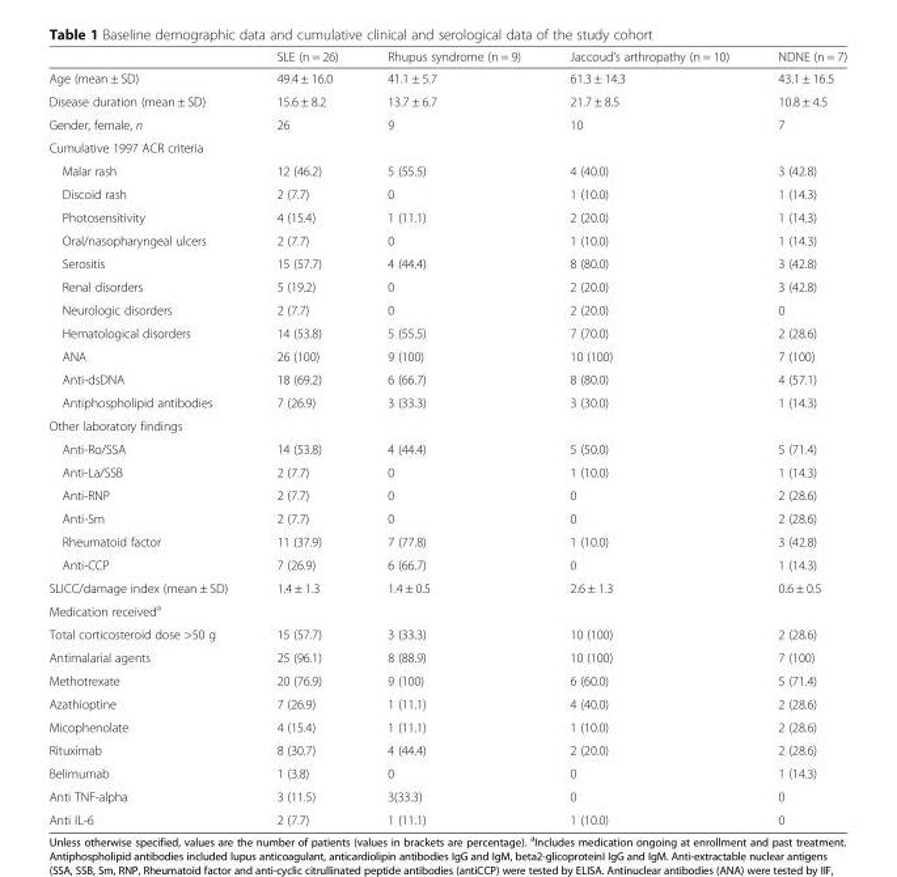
<table><thead><tr><td></td><td>SLE (n = 26)</td><td>Rhupus syndrome (n = 9)</td><td>Jaccoud’s arthropathy (n = 10)</td><td>NDNE (n = 7)</td></tr></thead><tbody><tr><td>Age (mean ± SD)</td><td>49.4 ± 16.0</td><td>41.1 ± 5.7</td><td>61.3 ± 14.3</td><td>43.1 ± 16.5</td></tr><tr><td>Disease duration (mean ± SD)</td><td>15.6 ± 8.2</td><td>13.7 ± 6.7</td><td>21.7 ± 8.5</td><td>10.8 ± 4.5</td></tr><tr><td>Gender, female, n</td><td>26</td><td>9</td><td>10</td><td>7</td></tr><tr><td colspan="5">Cumulative 1997 ACR criteria</td></tr><tr><td>Malar rash</td><td>12 (46.2)</td><td>5 (55.5)</td><td>4 (40.0)</td><td>3 (42.8)</td></tr><tr><td>Discoid rash</td><td>2 (7.7)</td><td>0</td><td>1 (10.0)</td><td>1 (14.3)</td></tr><tr><td>Photosensitivity</td><td>4 (15.4)</td><td>1 (11.1)</td><td>2 (20.0)</td><td>1 (14.3)</td></tr><tr><td>Oral/nasopharyngeal ulcers</td><td>2 (7.7)</td><td>0</td><td>1 (10.0)</td><td>1 (14.3)</td></tr><tr><td>Serositis</td><td>15 (57.7)</td><td>4 (44.4)</td><td>8 (80.0)</td><td>3 (42.8)</td></tr><tr><td>Renal disorders</td><td>5 (19.2)</td><td>0</td><td>2 (20.0)</td><td>3 (42.8)</td></tr><tr><td>Neurologic disorders</td><td>2 (7.7)</td><td>0</td><td>2 (20.0)</td><td>0</td></tr><tr><td>Hematological disorders</td><td>14 (53.8)</td><td>5 (55.5)</td><td>7 (70.0)</td><td>2 (28.6)</td></tr><tr><td>ANA</td><td>26 (100)</td><td>9 (100)</td><td>10 (100)</td><td>7 (100)</td></tr><tr><td>Anti-dsDNA</td><td>18 (69.2)</td><td>6 (66.7)</td><td>8 (80.0)</td><td>4 (57.1)</td></tr><tr><td>Antiphospholipid antibodies</td><td>7 (26.9)</td><td>3 (33.3)</td><td>3 (30.0)</td><td>1 (14.3)</td></tr><tr><td colspan="5">Other laboratory findings</td></tr><tr><td>Anti-Ro/SSA</td><td>14 (53.8)</td><td>4 (44.4)</td><td>5 (50.0)</td><td>5 (71.4)</td></tr><tr><td>Anti-La/SSB</td><td>2 (7.7)</td><td>0</td><td>1 (10.0)</td><td>1 (14.3)</td></tr><tr><td>Anti-RNP</td><td>2 (7.7)</td><td>0</td><td>0</td><td>2 (28.6)</td></tr><tr><td>Anti-Sm</td><td>2 (7.7)</td><td>0</td><td>0</td><td>2 (28.6)</td></tr><tr><td>Rheumatoid factor</td><td>11 (37.9)</td><td>7 (77.8)</td><td>1 (10.0)</td><td>3 (42.8)</td></tr><tr><td>Anti-CCP</td><td>7 (26.9)</td><td>6 (66.7)</td><td>0</td><td>1 (14.3)</td></tr><tr><td>SLICC/damage index (mean ± SD)</td><td>1.4 ± 1.3</td><td>1.4 ± 0.5</td><td>2.6 ± 1.3</td><td>0.6 ± 0.5</td></tr><tr><td colspan="5">Medication received<sup>a</sup></td></tr><tr><td>Total corticosteroid dose &gt;50 g</td><td>15 (57.7)</td><td>3 (33.3)</td><td>10 (100)</td><td>2 (28.6)</td></tr><tr><td>Antimalarial agents</td><td>25 (96.1)</td><td>8 (88.9)</td><td>10 (100)</td><td>7 (100)</td></tr><tr><td>Methotrexate</td><td>20 (76.9)</td><td>9 (100)</td><td>6 (60.0)</td><td>5 (71.4)</td></tr><tr><td>Azathioptine</td><td>7 (26.9)</td><td>1 (11.1)</td><td>4 (40.0)</td><td>2 (28.6)</td></tr><tr><td>Micophenolate</td><td>4 (15.4)</td><td>1 (11.1)</td><td>1 (10.0)</td><td>2 (28.6)</td></tr><tr><td>Rituximab</td><td>8 (30.7)</td><td>4 (44.4)</td><td>2 (20.0)</td><td>2 (28.6)</td></tr><tr><td>Belimumab</td><td>1 (3.8)</td><td>0</td><td>0</td><td>1 (14.3)</td></tr><tr><td>Anti TNF-alpha</td><td>3 (11.5)</td><td>3(33.3)</td><td>0</td><td>0</td></tr><tr><td>Anti IL-6</td><td>2 (7.7)</td><td>1 (11.1)</td><td>1 (10.0)</td><td>0</td></tr></tbody></table>